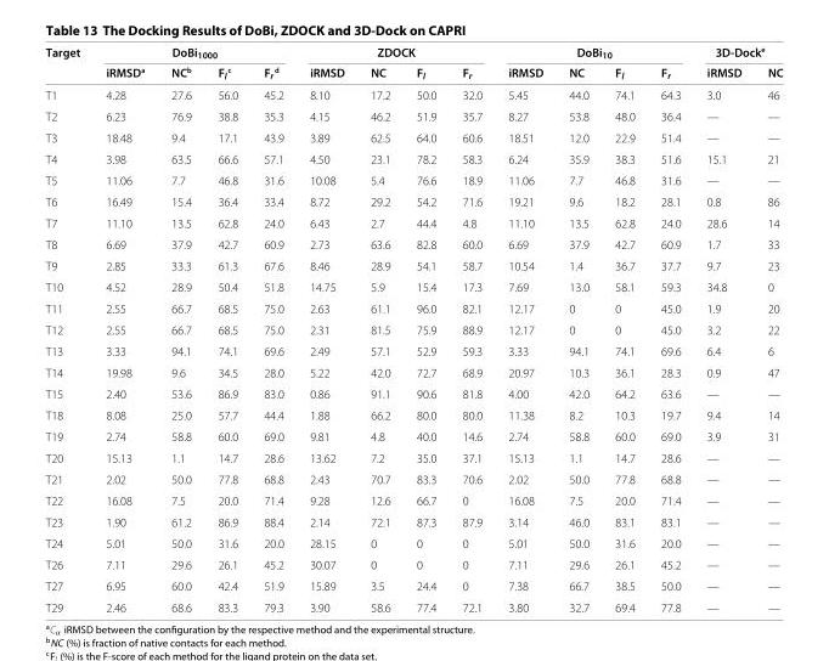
<table><thead><tr><td rowspan="2">Target</td><td colspan="4">DoBi<sub>1000</sub></td><td colspan="4">ZDOCK</td><td colspan="4">DoBi<sub>10</sub></td><td colspan="2">3D-Dock<sup>e</sup></td></tr><tr><td>iRMSD<sup>a</sup></td><td>NC<sup>b</sup></td><td>F<sub>l</sub> <sup>c</sup></td><td>F<sub>r</sub> <sup>d</sup></td><td>iRMSD</td><td>NC</td><td>F<sub>l</sub></td><td>F<sub>r</sub></td><td>iRMSD</td><td>NC</td><td>F<sub>l</sub></td><td>F<sub>r</sub></td><td>iRMSD</td><td>NC</td></tr></thead><tbody><tr><td>T1</td><td>4.28</td><td>27.6</td><td>56.0</td><td>45.2</td><td>8.10</td><td>17.2</td><td>50.0</td><td>32.0</td><td>5.45</td><td>44.0</td><td>74.1</td><td>64.3</td><td>3.0</td><td>46</td></tr><tr><td>T2</td><td>6.23</td><td>76.9</td><td>38.8</td><td>35.3</td><td>4.15</td><td>46.2</td><td>51.9</td><td>35.7</td><td>8.27</td><td>53.8</td><td>48.0</td><td>36.4</td><td>—</td><td>—</td></tr><tr><td>T3</td><td>18.48</td><td>9.4</td><td>17.1</td><td>43.9</td><td>3.89</td><td>62.5</td><td>64.0</td><td>60.6</td><td>18.51</td><td>12.0</td><td>22.9</td><td>51.4</td><td>—</td><td>—</td></tr><tr><td>T4</td><td>3.98</td><td>63.5</td><td>66.6</td><td>57.1</td><td>4.50</td><td>23.1</td><td>78.2</td><td>58.3</td><td>6.24</td><td>35.9</td><td>38.3</td><td>51.6</td><td>15.1</td><td>21</td></tr><tr><td>T5</td><td>11.06</td><td>7.7</td><td>46.8</td><td>31.6</td><td>10.08</td><td>5.4</td><td>76.6</td><td>18.9</td><td>11.06</td><td>7.7</td><td>46.8</td><td>31.6</td><td>—</td><td>—</td></tr><tr><td>T6</td><td>16.49</td><td>15.4</td><td>36.4</td><td>33.4</td><td>8.72</td><td>29.2</td><td>54.2</td><td>71.6</td><td>19.21</td><td>9.6</td><td>18.2</td><td>28.1</td><td>0.8</td><td>86</td></tr><tr><td>T7</td><td>11.10</td><td>13.5</td><td>62.8</td><td>24.0</td><td>6.43</td><td>2.7</td><td>44.4</td><td>4.8</td><td>11.10</td><td>13.5</td><td>62.8</td><td>24.0</td><td>28.6</td><td>14</td></tr><tr><td>T8</td><td>6.69</td><td>37.9</td><td>42.7</td><td>60.9</td><td>2.73</td><td>63.6</td><td>82.8</td><td>60.0</td><td>6.69</td><td>37.9</td><td>42.7</td><td>60.9</td><td>1.7</td><td>33</td></tr><tr><td>T9</td><td>2.85</td><td>33.3</td><td>61.3</td><td>67.6</td><td>8.46</td><td>28.9</td><td>54.1</td><td>58.7</td><td>10.54</td><td>1.4</td><td>36.7</td><td>37.7</td><td>9.7</td><td>23</td></tr><tr><td>T10</td><td>4.52</td><td>28.9</td><td>50.4</td><td>51.8</td><td>14.75</td><td>5.9</td><td>15.4</td><td>17.3</td><td>7.69</td><td>13.0</td><td>58.1</td><td>59.3</td><td>34.8</td><td>0</td></tr><tr><td>T11</td><td>2.55</td><td>66.7</td><td>68.5</td><td>75.0</td><td>2.63</td><td>61.1</td><td>96.0</td><td>82.1</td><td>12.17</td><td>0</td><td>0</td><td>45.0</td><td>1.9</td><td>20</td></tr><tr><td>T12</td><td>2.55</td><td>66.7</td><td>68.5</td><td>75.0</td><td>2.31</td><td>81.5</td><td>75.9</td><td>88.9</td><td>12.17</td><td>0</td><td>0</td><td>45.0</td><td>3.2</td><td>22</td></tr><tr><td>T13</td><td>3.33</td><td>94.1</td><td>74.1</td><td>69.6</td><td>2.49</td><td>57.1</td><td>52.9</td><td>59.3</td><td>3.33</td><td>94.1</td><td>74.1</td><td>69.6</td><td>6.4</td><td>6</td></tr><tr><td>T14</td><td>19.98</td><td>9.6</td><td>34.5</td><td>28.0</td><td>5.22</td><td>42.0</td><td>72.7</td><td>68.9</td><td>20.97</td><td>10.3</td><td>36.1</td><td>28.3</td><td>0.9</td><td>47</td></tr><tr><td>T15</td><td>2.40</td><td>53.6</td><td>86.9</td><td>83.0</td><td>0.86</td><td>91.1</td><td>90.6</td><td>81.8</td><td>4.00</td><td>42.0</td><td>64.2</td><td>63.6</td><td>—</td><td>—</td></tr><tr><td>T18</td><td>8.08</td><td>25.0</td><td>57.7</td><td>44.4</td><td>1.88</td><td>66.2</td><td>80.0</td><td>80.0</td><td>11.38</td><td>8.2</td><td>10.3</td><td>19.7</td><td>9.4</td><td>14</td></tr><tr><td>T19</td><td>2.74</td><td>58.8</td><td>60.0</td><td>69.0</td><td>9.81</td><td>4.8</td><td>40.0</td><td>14.6</td><td>2.74</td><td>58.8</td><td>60.0</td><td>69.0</td><td>3.9</td><td>31</td></tr><tr><td>T20</td><td>15.13</td><td>1.1</td><td>14.7</td><td>28.6</td><td>13.62</td><td>7.2</td><td>35.0</td><td>37.1</td><td>15.13</td><td>1.1</td><td>14.7</td><td>28.6</td><td>—</td><td>—</td></tr><tr><td>T21</td><td>2.02</td><td>50.0</td><td>77.8</td><td>68.8</td><td>2.43</td><td>70.7</td><td>83.3</td><td>70.6</td><td>2.02</td><td>50.0</td><td>77.8</td><td>68.8</td><td>—</td><td>—</td></tr><tr><td>T22</td><td>16.08</td><td>7.5</td><td>20.0</td><td>71.4</td><td>9.28</td><td>12.6</td><td>66.7</td><td>0</td><td>16.08</td><td>7.5</td><td>20.0</td><td>71.4</td><td>—</td><td>—</td></tr><tr><td>T23</td><td>1.90</td><td>61.2</td><td>86.9</td><td>88.4</td><td>2.14</td><td>72.1</td><td>87.3</td><td>87.9</td><td>3.14</td><td>46.0</td><td>83.1</td><td>83.1</td><td>—</td><td>—</td></tr><tr><td>T24</td><td>5.01</td><td>50.0</td><td>31.6</td><td>20.0</td><td>28.15</td><td>0</td><td>0</td><td>0</td><td>5.01</td><td>50.0</td><td>31.6</td><td>20.0</td><td>—</td><td>—</td></tr><tr><td>T26</td><td>7.11</td><td>29.6</td><td>26.1</td><td>45.2</td><td>30.07</td><td>0</td><td>0</td><td>0</td><td>7.11</td><td>29.6</td><td>26.1</td><td>45.2</td><td>—</td><td>—</td></tr><tr><td>T27</td><td>6.95</td><td>60.0</td><td>42.4</td><td>51.9</td><td>15.89</td><td>3.5</td><td>24.4</td><td>0</td><td>7.38</td><td>66.7</td><td>38.5</td><td>50.0</td><td>—</td><td>—</td></tr><tr><td>T29</td><td>2.46</td><td>68.6</td><td>83.3</td><td>79.3</td><td>3.90</td><td>58.6</td><td>77.4</td><td>72.1</td><td>3.80</td><td>32.7</td><td>69.4</td><td>77.8</td><td>—</td><td>—</td></tr></tbody></table>